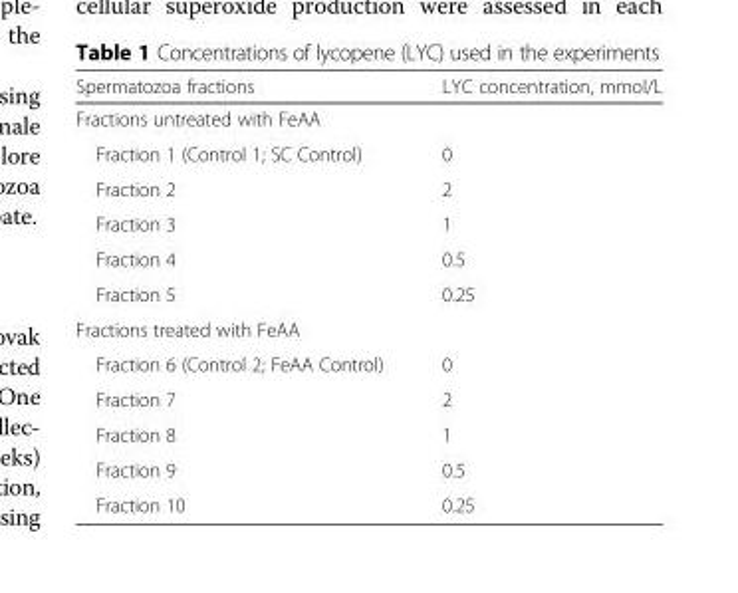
<table><thead><tr><td>Spermatozoa fractions</td><td>LYC concentration, mmol/L</td></tr></thead><tbody><tr><td colspan="2">Fractions untreated with FeAA</td></tr><tr><td>Fraction 1 (Control 1; SC Control)</td><td>0</td></tr><tr><td>Fraction 2</td><td>2</td></tr><tr><td>Fraction 3</td><td>1</td></tr><tr><td>Fraction 4</td><td>0.5</td></tr><tr><td>Fraction 5</td><td>0.25</td></tr><tr><td colspan="2">Fractions treated with FeAA</td></tr><tr><td>Fraction 6 (Control 2; FeAA Control)</td><td>0</td></tr><tr><td>Fraction 7</td><td>2</td></tr><tr><td>Fraction 8</td><td>1</td></tr><tr><td>Fraction 9</td><td>0.5</td></tr><tr><td>Fraction 10</td><td>0.25</td></tr></tbody></table>